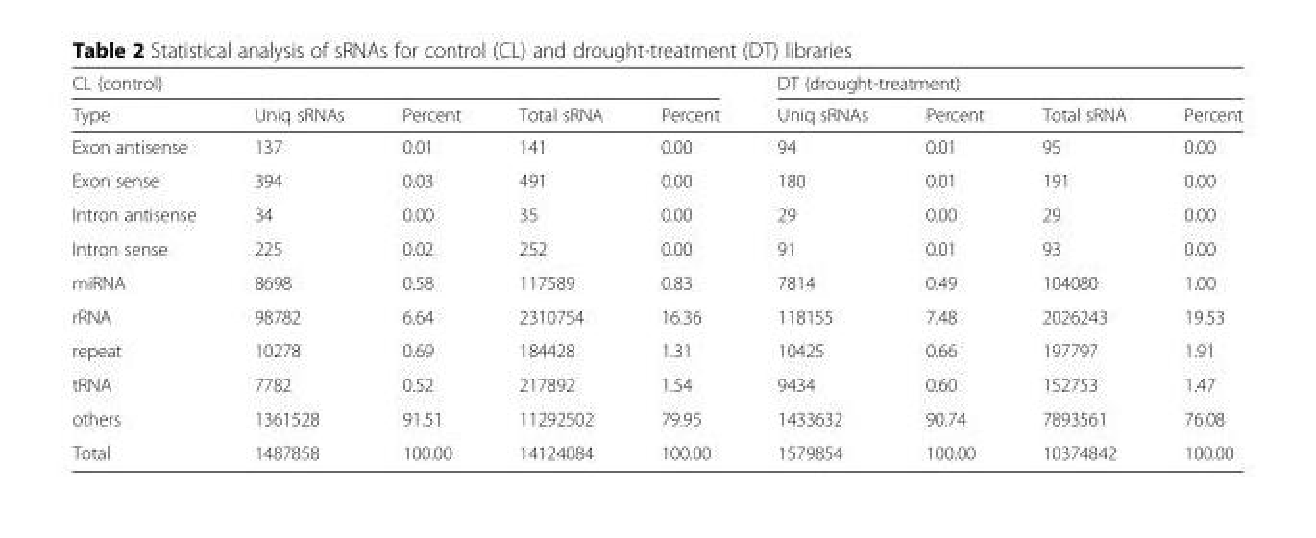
<table><thead><tr><td colspan="5">CL (control)</td><td colspan="4">DT (drought-treatment)</td></tr><tr><td>Type</td><td>Uniq sRNAs</td><td>Percent</td><td>Total sRNA</td><td>Percent</td><td>Uniq sRNAs</td><td>Percent</td><td>Total sRNA</td><td>Percent</td></tr></thead><tbody><tr><td>Exon antisense</td><td>137</td><td>0.01</td><td>141</td><td>0.00</td><td>94</td><td>0.01</td><td>95</td><td>0.00</td></tr><tr><td>Exon sense</td><td>394</td><td>0.03</td><td>491</td><td>0.00</td><td>180</td><td>0.01</td><td>191</td><td>0.00</td></tr><tr><td>Intron antisense</td><td>34</td><td>0.00</td><td>35</td><td>0.00</td><td>29</td><td>0.00</td><td>29</td><td>0.00</td></tr><tr><td>Intron sense</td><td>225</td><td>0.02</td><td>252</td><td>0.00</td><td>91</td><td>0.01</td><td>93</td><td>0.00</td></tr><tr><td>miRNA</td><td>8698</td><td>0.58</td><td>117589</td><td>0.83</td><td>7814</td><td>0.49</td><td>104080</td><td>1.00</td></tr><tr><td>rRNA</td><td>98782</td><td>6.64</td><td>2310754</td><td>16.36</td><td>118155</td><td>7.48</td><td>2026243</td><td>19.53</td></tr><tr><td>repeat</td><td>10278</td><td>0.69</td><td>184428</td><td>1.31</td><td>10425</td><td>0.66</td><td>197797</td><td>1.91</td></tr><tr><td>tRNA</td><td>7782</td><td>0.52</td><td>217892</td><td>1.54</td><td>9434</td><td>0.60</td><td>152753</td><td>1.47</td></tr><tr><td>others</td><td>1361528</td><td>91.51</td><td>11292502</td><td>79.95</td><td>1433632</td><td>90.74</td><td>7893561</td><td>76.08</td></tr><tr><td>Total</td><td>1487858</td><td>100.00</td><td>14124084</td><td>100.00</td><td>1579854</td><td>100.00</td><td>10374842</td><td>100.00</td></tr></tbody></table>